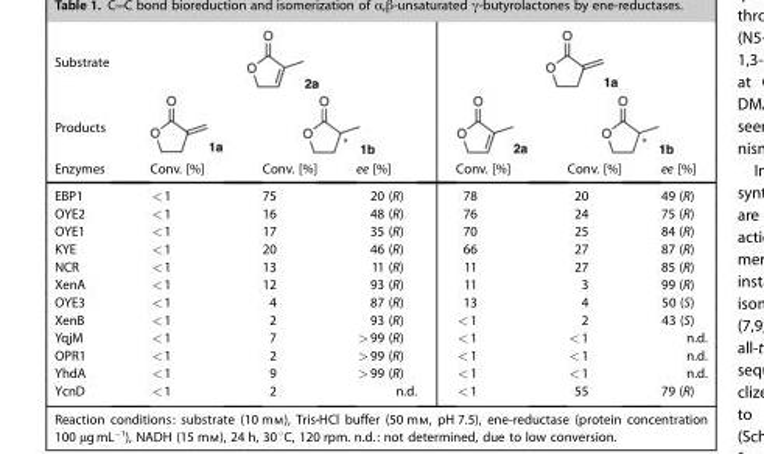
<table><thead><tr><td rowspan="3">Substrate Products Enzymes</td><td rowspan="3">Conv. [%]</td><td rowspan="3">Conv. [%]</td><td rowspan="3">ee [%]</td><td rowspan="3">Conv. [%]</td><td rowspan="3">Conv. [%]</td><td rowspan="3">ee [%]</td></tr><tr></tr><tr></tr></thead><tbody><tr><td>EBP1</td><td>&lt;1</td><td>75</td><td>20 (R)</td><td>78</td><td>20</td><td>49 (R)</td></tr><tr><td>OYE2</td><td>&lt;1</td><td>16</td><td>48 (R)</td><td>76</td><td>24</td><td>75 (R)</td></tr><tr><td>OYE1</td><td>&lt;1</td><td>17</td><td>35 (R)</td><td>70</td><td>25</td><td>84 (R)</td></tr><tr><td>KYE</td><td>&lt;1</td><td>20</td><td>46 (R)</td><td>66</td><td>27</td><td>87 (R)</td></tr><tr><td>NCR</td><td>&lt;1</td><td>13</td><td>11 (R)</td><td>11</td><td>27</td><td>85 (R)</td></tr><tr><td>XenA</td><td>&lt;1</td><td>12</td><td>93 (R)</td><td>11</td><td>3</td><td>99 (R)</td></tr><tr><td>OYE3</td><td>&lt;1</td><td>4</td><td>87 (R)</td><td>13</td><td>4</td><td>50 (S)</td></tr><tr><td>XenB</td><td>&lt;1</td><td>2</td><td>93 (R)</td><td>&lt;1</td><td>2</td><td>43 (S)</td></tr><tr><td>YqjM</td><td>&lt;1</td><td>7</td><td>&gt;99 (R)</td><td>&lt;1</td><td>&lt;1</td><td>n.d.</td></tr><tr><td>OPR1</td><td>&lt;1</td><td>2</td><td>&gt;99 (R)</td><td>&lt;1</td><td>&lt;1</td><td>n.d.</td></tr><tr><td>YhdA</td><td>&lt;1</td><td>9</td><td>&gt;99 (R)</td><td>&lt;1</td><td>&lt;1</td><td>n.d.</td></tr><tr><td>YcnD</td><td>&lt;1</td><td>2</td><td>n.d.</td><td>&lt;1</td><td>55</td><td>79 (R)</td></tr></tbody></table>